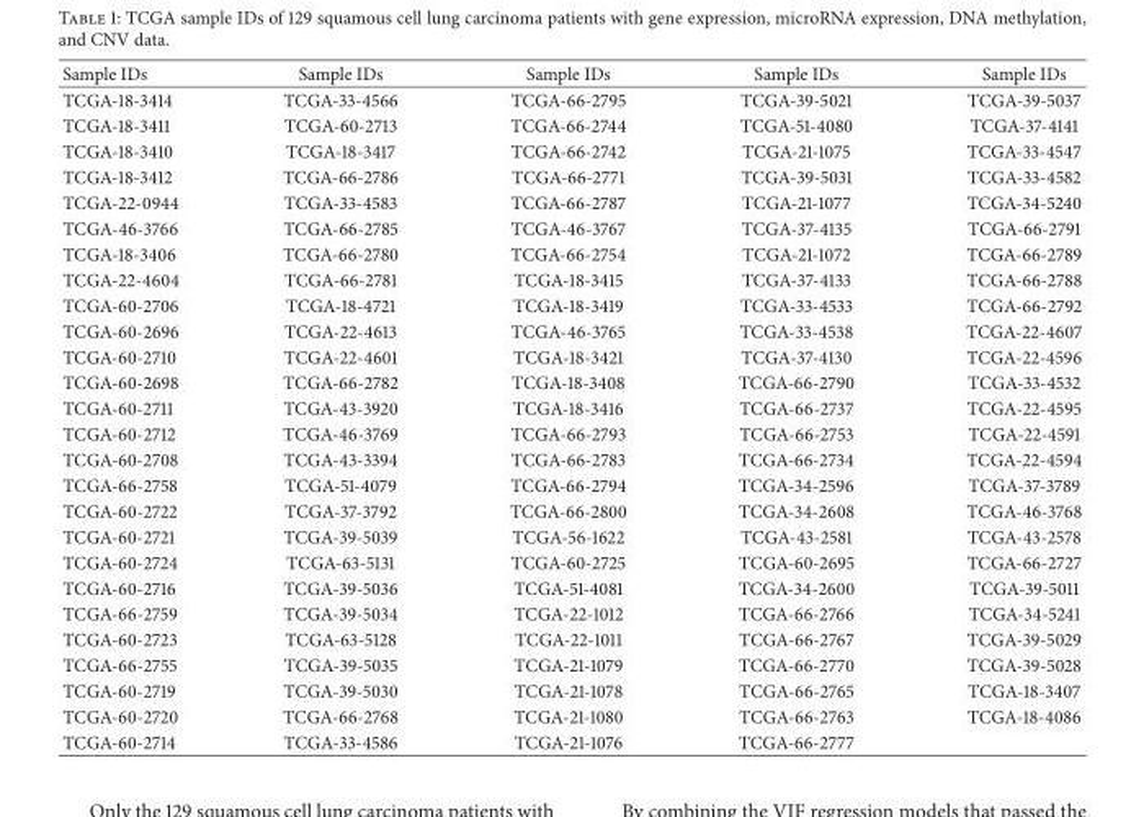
<table><thead><tr><td>Sample IDs</td><td>Sample IDs</td><td>Sample IDs</td><td>Sample IDs</td><td>Sample IDs</td></tr></thead><tbody><tr><td>TCGA-18-3414</td><td>TCGA-33-4566</td><td>TCGA-66-2795</td><td>TCGA-39-5021</td><td>TCGA-39-5037</td></tr><tr><td>TCGA-18-3411</td><td>TCGA-60-2713</td><td>TCGA-66-2744</td><td>TCGA-51-4080</td><td>TCGA-37-4141</td></tr><tr><td>TCGA-18-3410</td><td>TCGA-18-3417</td><td>TCGA-66-2742</td><td>TCGA-21-1075</td><td>TCGA-33-4547</td></tr><tr><td>TCGA-18-3412</td><td>TCGA-66-2786</td><td>TCGA-66-2771</td><td>TCGA-39-5031</td><td>TCGA-33-4582</td></tr><tr><td>TCGA-22-0944</td><td>TCGA-33-4583</td><td>TCGA-66-2787</td><td>TCGA-21-1077</td><td>TCGA-34-5240</td></tr><tr><td>TCGA-46-3766</td><td>TCGA-66-2785</td><td>TCGA-46-3767</td><td>TCGA-37-4135</td><td>TCGA-66-2791</td></tr><tr><td>TCGA-18-3406</td><td>TCGA-66-2780</td><td>TCGA-66-2754</td><td>TCGA-21-1072</td><td>TCGA-66-2789</td></tr><tr><td>TCGA-22-4604</td><td>TCGA-66-2781</td><td>TCGA-18-3415</td><td>TCGA-37-4133</td><td>TCGA-66-2788</td></tr><tr><td>TCGA-60-2706</td><td>TCGA-18-4721</td><td>TCGA-18-3419</td><td>TCGA-33-4533</td><td>TCGA-66-2792</td></tr><tr><td>TCGA-60-2696</td><td>TCGA-22-4613</td><td>TCGA-46-3765</td><td>TCGA-33-4538</td><td>TCGA-22-4607</td></tr><tr><td>TCGA-60-2710</td><td>TCGA-22-4601</td><td>TCGA-18-3421</td><td>TCGA-37-4130</td><td>TCGA-22-4596</td></tr><tr><td>TCGA-60-2698</td><td>TCGA-66-2782</td><td>TCGA-18-3408</td><td>TCGA-66-2790</td><td>TCGA-33-4532</td></tr><tr><td>TCGA-60-2711</td><td>TCGA-43-3920</td><td>TCGA-18-3416</td><td>TCGA-66-2737</td><td>TCGA-22-4595</td></tr><tr><td>TCGA-60-2712</td><td>TCGA-46-3769</td><td>TCGA-66-2793</td><td>TCGA-66-2753</td><td>TCGA-22-4591</td></tr><tr><td>TCGA-60-2708</td><td>TCGA-43-3394</td><td>TCGA-66-2783</td><td>TCGA-66-2734</td><td>TCGA-22-4594</td></tr><tr><td>TCGA-66-2758</td><td>TCGA-51-4079</td><td>TCGA-66-2794</td><td>TCGA-34-2596</td><td>TCGA-37-3789</td></tr><tr><td>TCGA-60-2722</td><td>TCGA-37-3792</td><td>TCGA-66-2800</td><td>TCGA-34-2608</td><td>TCGA-46-3768</td></tr><tr><td>TCGA-60-2721</td><td>TCGA-39-5039</td><td>TCGA-56-1622</td><td>TCGA-43-2581</td><td>TCGA-43-2578</td></tr><tr><td>TCGA-60-2724</td><td>TCGA-63-5131</td><td>TCGA-60-2725</td><td>TCGA-60-2695</td><td>TCGA-66-2727</td></tr><tr><td>TCGA-60-2716</td><td>TCGA-39-5036</td><td>TCGA-51-4081</td><td>TCGA-34-2600</td><td>TCGA-39-5011</td></tr><tr><td>TCGA-66-2759</td><td>TCGA-39-5034</td><td>TCGA-22-1012</td><td>TCGA-66-2766</td><td>TCGA-34-5241</td></tr><tr><td>TCGA-60-2723</td><td>TCGA-63-5128</td><td>TCGA-22-1011</td><td>TCGA-66-2767</td><td>TCGA-39-5029</td></tr><tr><td>TCGA-66-2755</td><td>TCGA-39-5035</td><td>TCGA-21-1079</td><td>TCGA-66-2770</td><td>TCGA-39-5028</td></tr><tr><td>TCGA-60-2719</td><td>TCGA-39-5030</td><td>TCGA-21-1078</td><td>TCGA-66-2765</td><td>TCGA-18-3407</td></tr><tr><td>TCGA-60-2720</td><td>TCGA-66-2768</td><td>TCGA-21-1080</td><td>TCGA-66-2763</td><td>TCGA-18-4086</td></tr><tr><td>TCGA-60-2714</td><td>TCGA-33-4586</td><td>TCGA-21-1076</td><td>TCGA-66-2777</td><td></td></tr></tbody></table>